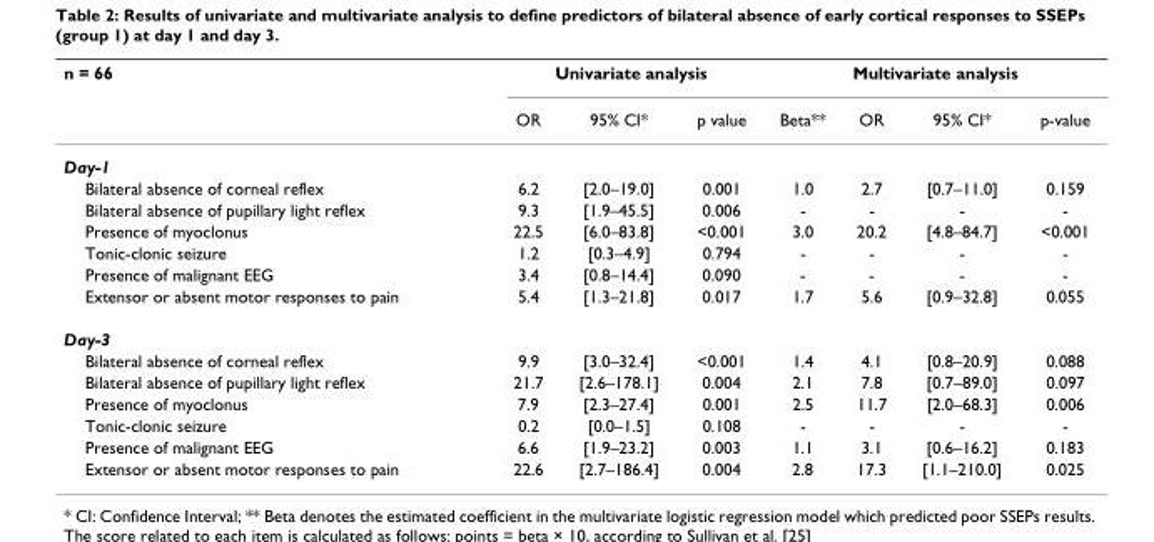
<table><thead><tr><td rowspan="2">n = 66</td><td colspan="3">Univariate analysis</td><td colspan="4">Multivariate analysis</td></tr><tr><td>OR</td><td>95% CI*</td><td>p value</td><td>Beta**</td><td>OR</td><td>95% CI*</td><td>p-value</td></tr></thead><tbody><tr><td colspan="8">Day-1</td></tr><tr><td>Bilateral absence of corneal reflex</td><td>6.2</td><td>[2.0–19.0]</td><td>0.001</td><td>1.0</td><td>2.7</td><td>[0.7–11.0]</td><td>0.159</td></tr><tr><td>Bilateral absence of pupillary light reflex</td><td>9.3</td><td>[1.9–45.5]</td><td>0.006</td><td>-</td><td>-</td><td>-</td><td>-</td></tr><tr><td>Presence of myoclonus</td><td>22.5</td><td>[6.0–83.8]</td><td>&lt;0.001</td><td>3.0</td><td>20.2</td><td>[4.8–84.7]</td><td>&lt;0.001</td></tr><tr><td>Tonic-clonic seizure</td><td>1.2</td><td>[0.3–4.9]</td><td>0.794</td><td>-</td><td>-</td><td>-</td><td>-</td></tr><tr><td>Presence of malignant EEG</td><td>3.4</td><td>[0.8–14.4]</td><td>0.090</td><td>-</td><td>-</td><td>-</td><td>-</td></tr><tr><td>Extensor or absent motor responses to pain</td><td>5.4</td><td>[1.3–21.8]</td><td>0.017</td><td>1.7</td><td>5.6</td><td>[0.9–32.8]</td><td>0.055</td></tr><tr><td colspan="8">Day-3</td></tr><tr><td>Bilateral absence of corneal reflex</td><td>9.9</td><td>[3.0–32.4]</td><td>&lt;0.001</td><td>1.4</td><td>4.1</td><td>[0.8–20.9]</td><td>0.088</td></tr><tr><td>Bilateral absence of pupillary light reflex</td><td>21.7</td><td>[2.6–178.1]</td><td>0.004</td><td>2.1</td><td>7.8</td><td>[0.7–89.0]</td><td>0.097</td></tr><tr><td>Presence of myoclonus</td><td>7.9</td><td>[2.3–27.4]</td><td>0.001</td><td>2.5</td><td>11.7</td><td>[2.0–68.3]</td><td>0.006</td></tr><tr><td>Tonic-clonic seizure</td><td>0.2</td><td>[0.0–1.5]</td><td>0.108</td><td>-</td><td>-</td><td>-</td><td>-</td></tr><tr><td>Presence of malignant EEG</td><td>6.6</td><td>[1.9–23.2]</td><td>0.003</td><td>1.1</td><td>3.1</td><td>[0.6–16.2]</td><td>0.183</td></tr><tr><td>Extensor or absent motor responses to pain</td><td>22.6</td><td>[2.7–186.4]</td><td>0.004</td><td>2.8</td><td>17.3</td><td>[1.1–210.0]</td><td>0.025</td></tr></tbody></table>